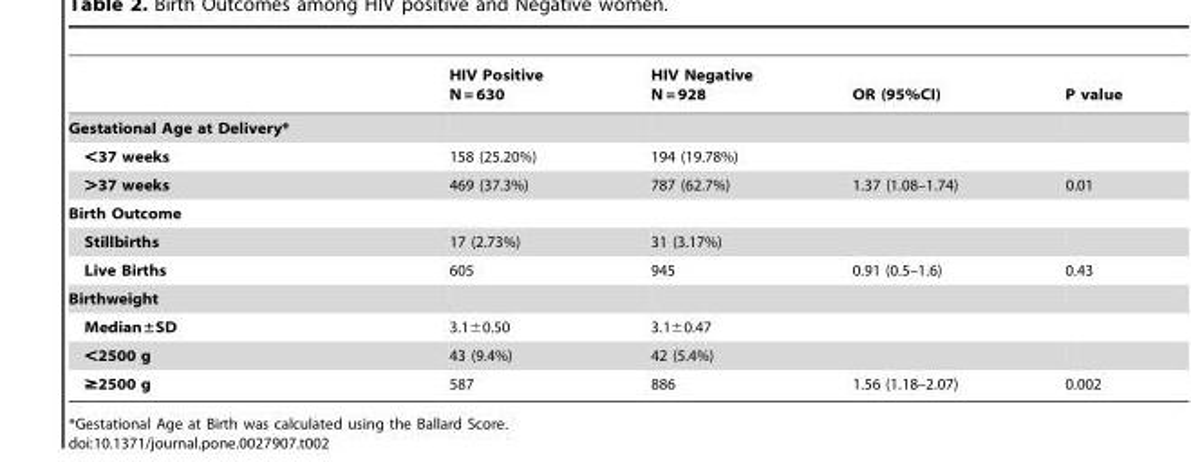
<table><thead><tr><td></td><td>HIV Positive N = 630</td><td>HIV Negative N = 928</td><td>OR (95%CI)</td><td>P value</td></tr></thead><tbody><tr><td colspan="5">Gestational Age at Delivery*</td></tr><tr><td>&lt;37 weeks</td><td>158 (25.20%)</td><td>194 (19.78%)</td><td></td><td></td></tr><tr><td>&gt;37 weeks</td><td>469 (37.3%)</td><td>787 (62.7%)</td><td>1.37 (1.08–1.74)</td><td>0.01</td></tr><tr><td colspan="5">Birth Outcome</td></tr><tr><td>Stillbirths</td><td>17 (2.73%)</td><td>31 (3.17%)</td><td></td><td></td></tr><tr><td>Live Births</td><td>605</td><td>945</td><td>0.91 (0.5–1.6)</td><td>0.43</td></tr><tr><td colspan="5">Birthweight</td></tr><tr><td>Median±SD</td><td>3.1±0.50</td><td>3.1±0.47</td><td></td><td></td></tr><tr><td>&lt;2500 g</td><td>43 (9.4%)</td><td>42 (5.4%)</td><td></td><td></td></tr><tr><td>≥2500 g</td><td>587</td><td>886</td><td>1.56 (1.18–2.07)</td><td>0.002</td></tr></tbody></table>